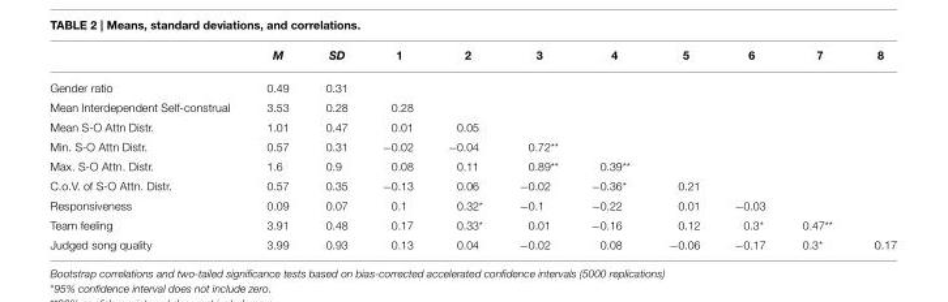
<table><thead><tr><td></td><td>M</td><td>SD</td><td>1</td><td>2</td><td>3</td><td>4</td><td>5</td><td>6</td><td>7</td><td>8</td></tr></thead><tbody><tr><td>Gender ratio</td><td>0.49</td><td>0.31</td><td></td><td></td><td></td><td></td><td></td><td></td><td></td><td></td></tr><tr><td>Mean Interdependent Self-construal</td><td>3.53</td><td>0.28</td><td>0.28</td><td></td><td></td><td></td><td></td><td></td><td></td><td></td></tr><tr><td>Mean S-O Attn Distr.</td><td>1.01</td><td>0.47</td><td>0.01</td><td>0.05</td><td></td><td></td><td></td><td></td><td></td><td></td></tr><tr><td>Min. S-O Attn Distr.</td><td>0.57</td><td>0.31</td><td>−0.02</td><td>−0.04</td><td>0.72**</td><td></td><td></td><td></td><td></td><td></td></tr><tr><td>Max. S-O Attn. Distr.</td><td>1.6</td><td>0.9</td><td>0.08</td><td>0.11</td><td>0.89**</td><td>0.39**</td><td></td><td></td><td></td><td></td></tr><tr><td>C.o.V. of S-O Attn. Distr.</td><td>0.57</td><td>0.35</td><td>−0.13</td><td>0.06</td><td>−0.02</td><td>−0.36*</td><td>0.21</td><td></td><td></td><td></td></tr><tr><td>Responsiveness</td><td>0.09</td><td>0.07</td><td>0.1</td><td>0.32*</td><td>−0.1</td><td>−0.22</td><td>0.01</td><td>−0.03</td><td></td><td></td></tr><tr><td>Team feeling</td><td>3.91</td><td>0.48</td><td>0.17</td><td>0.33*</td><td>0.01</td><td>−0.16</td><td>0.12</td><td>0.3*</td><td>0.47**</td><td></td></tr><tr><td>Judged song quality</td><td>3.99</td><td>0.93</td><td>0.13</td><td>0.04</td><td>−0.02</td><td>0.08</td><td>−0.06</td><td>−0.17</td><td>0.3*</td><td>0.17</td></tr></tbody></table>